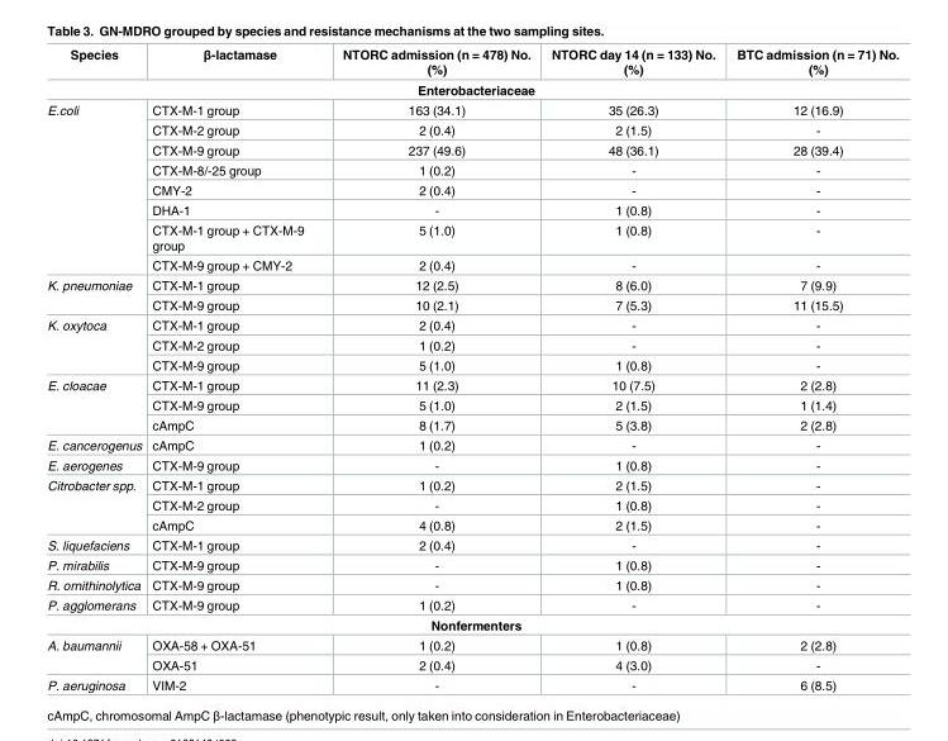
<table><thead><tr><td>Species</td><td>β-lactamase</td><td>NTORC admission (n = 478) No. (%)</td><td>NTORC day 14 (n = 133) No. (%)</td><td>BTC admission (n = 71) No. (%)</td></tr></thead><tbody><tr><td colspan="5">Enterobacteriaceae</td></tr><tr><td rowspan="8">E.coli</td><td>CTX-M-1 group</td><td>163 (34.1)</td><td>35 (26.3)</td><td>12 (16.9)</td></tr><tr><td>CTX-M-2 group</td><td>2 (0.4)</td><td>2 (1.5)</td><td>-</td></tr><tr><td>CTX-M-9 group</td><td>237 (49.6)</td><td>48 (36.1)</td><td>28 (39.4)</td></tr><tr><td>CTX-M-8/-25 group</td><td>1 (0.2)</td><td>-</td><td>-</td></tr><tr><td>CMY-2</td><td>2 (0.4)</td><td>-</td><td>-</td></tr><tr><td>DHA-1</td><td>-</td><td>1 (0.8)</td><td>-</td></tr><tr><td>CTX-M-1 group + CTX-M-9 group</td><td>5 (1.0)</td><td>1 (0.8)</td><td>-</td></tr><tr><td>CTX-M-9 group + CMY-2</td><td>2 (0.4)</td><td>-</td><td>-</td></tr><tr><td rowspan="2">K. pneumoniae</td><td>CTX-M-1 group</td><td>12 (2.5)</td><td>8 (6.0)</td><td>7 (9.9)</td></tr><tr><td>CTX-M-9 group</td><td>10 (2.1)</td><td>7 (5.3)</td><td>11 (15.5)</td></tr><tr><td rowspan="3">K. oxytoca</td><td>CTX-M-1 group</td><td>2 (0.4)</td><td>-</td><td>-</td></tr><tr><td>CTX-M-2 group</td><td>1 (0.2)</td><td>-</td><td>-</td></tr><tr><td>CTX-M-9 group</td><td>5 (1.0)</td><td>1 (0.8)</td><td>-</td></tr><tr><td rowspan="3">E. cloacae</td><td>CTX-M-1 group</td><td>11 (2.3)</td><td>10 (7.5)</td><td>2 (2.8)</td></tr><tr><td>CTX-M-9 group</td><td>5 (1.0)</td><td>2 (1.5)</td><td>1 (1.4)</td></tr><tr><td>cAmpC</td><td>8 (1.7)</td><td>5 (3.8)</td><td>2 (2.8)</td></tr><tr><td>E. cancerogenus</td><td>cAmpC</td><td>1 (0.2)</td><td>-</td><td>-</td></tr><tr><td>E. aerogenes</td><td>CTX-M-9 group</td><td>-</td><td>1 (0.8)</td><td>-</td></tr><tr><td rowspan="3">Citrobacter spp.</td><td>CTX-M-1 group</td><td>1 (0.2)</td><td>2 (1.5)</td><td>-</td></tr><tr><td>CTX-M-2 group</td><td>-</td><td>1 (0.8)</td><td>-</td></tr><tr><td>cAmpC</td><td>4 (0.8)</td><td>2 (1.5)</td><td>-</td></tr><tr><td>S. liquefaciens</td><td>CTX-M-1 group</td><td>2 (0.4)</td><td>-</td><td>-</td></tr><tr><td>P. mirabilis</td><td>CTX-M-9 group</td><td>-</td><td>1 (0.8)</td><td>-</td></tr><tr><td>R. ornithinolytica</td><td>CTX-M-9 group</td><td>-</td><td>1 (0.8)</td><td>-</td></tr><tr><td>P. agglomerans</td><td>CTX-M-9 group</td><td>1 (0.2)</td><td>-</td><td>-</td></tr><tr><td colspan="5">Nonfermenters</td></tr><tr><td rowspan="2">A. baumannii</td><td>OXA-58 + OXA-51</td><td>1 (0.2)</td><td>1 (0.8)</td><td>2 (2.8)</td></tr><tr><td>OXA-51</td><td>2 (0.4)</td><td>4 (3.0)</td><td>-</td></tr><tr><td>P. aeruginosa</td><td>VIM-2</td><td>-</td><td>-</td><td>6 (8.5)</td></tr></tbody></table>